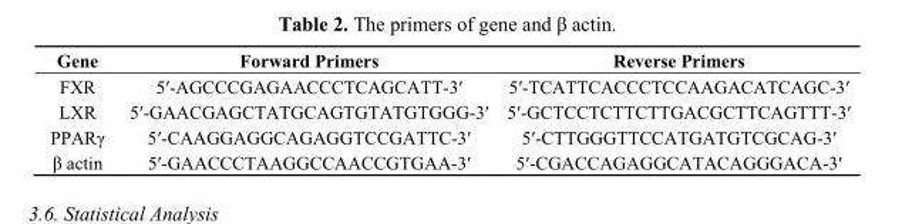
<table><thead><tr><td>Gene</td><td>Forward Primers</td><td>Reverse Primers</td></tr></thead><tbody><tr><td>FXR</td><td>5′-AGCCCGAGAACCCTCAGCATT-3′</td><td>5′-TCATTCACCCTCCAAGACATCAGC-3′</td></tr><tr><td>LXR</td><td>5′-GAACGAGCTATGCAGTGTATGTGGG-3′</td><td>5′-GCTCCTCTTCTTGACGCTTCAGTTT-3′</td></tr><tr><td>PPARγ</td><td>5′-CAAGGAGGCAGAGGTCCGATTC-3′</td><td>5′-CTTGGGTTCCATGATGTCGCAG-3′</td></tr><tr><td>β actin</td><td>5′-GAACCCTAAGGCCAACCGTGAA-3′</td><td>5′-CGACCAGAGGCATACAGGGACA-3′</td></tr></tbody></table>